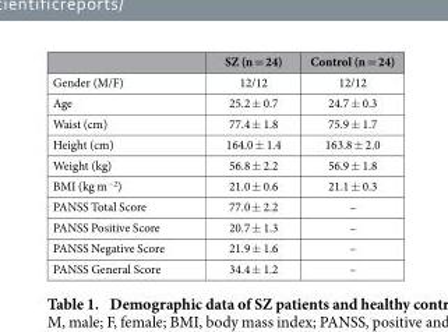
<table><thead><tr><td></td><td>SZ (n = 24)</td><td>Control (n = 24)</td></tr></thead><tbody><tr><td>Gender (M/F)</td><td>12/12</td><td>12/12</td></tr><tr><td>Age</td><td>25.2 ± 0.7</td><td>24.7 ± 0.3</td></tr><tr><td>Waist (cm)</td><td>77.4 ± 1.8</td><td>75.9 ± 1.7</td></tr><tr><td>Height (cm)</td><td>164.0 ± 1.4</td><td>163.8 ± 2.0</td></tr><tr><td>Weight (kg)</td><td>56.8 ± 2.2</td><td>56.9 ± 1.8</td></tr><tr><td>BMI (kg m<sup>−2</sup>)</td><td>21.0 ± 0.6</td><td>21.1 ± 0.3</td></tr><tr><td>PANSS Total Score</td><td>77.0 ± 2.2</td><td>–</td></tr><tr><td>PANSS Positive Score</td><td>20.7 ± 1.3</td><td>–</td></tr><tr><td>PANSS Negative Score</td><td>21.9 ± 1.6</td><td>–</td></tr><tr><td>PANSS General Score</td><td>34.4 ± 1.2</td><td>–</td></tr></tbody></table>